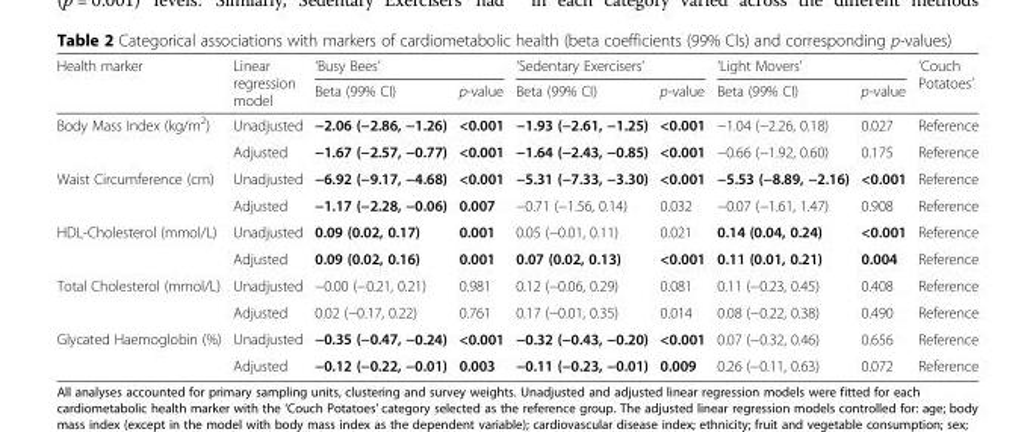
<table><thead><tr><td rowspan="2">Health marker</td><td rowspan="2">Linear regression model</td><td colspan="2">‘Busy Bees’</td><td colspan="2">‘Sedentary Exercisers’</td><td colspan="2">‘Light Movers’</td><td rowspan="2">‘Couch Potatoes’</td></tr><tr><td>Beta (99% CI)</td><td>p-value</td><td>Beta (99% CI)</td><td>p-value</td><td>Beta (99% CI)</td><td>p-value</td></tr></thead><tbody><tr><td rowspan="2">Body Mass Index (kg/m<sup>2</sup>)</td><td>Unadjusted</td><td>−2.06 (−2.86, −1.26)</td><td>&lt;0.001</td><td>−1.93 (−2.61, −1.25)</td><td>&lt;0.001</td><td>−1.04 (−2.26, 0.18)</td><td>0.027</td><td>Reference</td></tr><tr><td>Adjusted</td><td>−1.67 (−2.57, −0.77)</td><td>&lt;0.001</td><td>−1.64 (−2.43, −0.85)</td><td>&lt;0.001</td><td>−0.66 (−1.92, 0.60)</td><td>0.175</td><td>Reference</td></tr><tr><td rowspan="2">Waist Circumference (cm)</td><td>Unadjusted</td><td>−6.92 (−9.17, −4.68)</td><td>&lt;0.001</td><td>−5.31 (−7.33, −3.30)</td><td>&lt;0.001</td><td>−5.53 (−8.89, −2.16)</td><td>&lt;0.001</td><td>Reference</td></tr><tr><td>Adjusted</td><td>−1.17 (−2.28, −0.06)</td><td>0.007</td><td>−0.71 (−1.56, 0.14)</td><td>0.032</td><td>−0.07 (−1.61, 1.47)</td><td>0.908</td><td>Reference</td></tr><tr><td rowspan="2">HDL-Cholesterol (mmol/L)</td><td>Unadjusted</td><td>0.09 (0.02, 0.17)</td><td>0.001</td><td>0.05 (−0.01, 0.11)</td><td>0.021</td><td>0.14 (0.04, 0.24)</td><td>&lt;0.001</td><td>Reference</td></tr><tr><td>Adjusted</td><td>0.09 (0.02, 0.16)</td><td>0.001</td><td>0.07 (0.02, 0.13)</td><td>&lt;0.001</td><td>0.11 (0.01, 0.21)</td><td>0.004</td><td>Reference</td></tr><tr><td rowspan="2">Total Cholesterol (mmol/L)</td><td>Unadjusted</td><td>−0.00 (−0.21, 0.21)</td><td>0.981</td><td>0.12 (−0.06, 0.29)</td><td>0.081</td><td>0.11 (−0.23, 0.45)</td><td>0.408</td><td>Reference</td></tr><tr><td>Adjusted</td><td>0.02 (−0.17, 0.22)</td><td>0.761</td><td>0.17 (−0.01, 0.35)</td><td>0.014</td><td>0.08 (−0.22, 0.38)</td><td>0.490</td><td>Reference</td></tr><tr><td rowspan="2">Glycated Haemoglobin (%)</td><td>Unadjusted</td><td>−0.35 (−0.47, −0.24)</td><td>&lt;0.001</td><td>−0.32 (−0.43, −0.20)</td><td>&lt;0.001</td><td>0.07 (−0.32, 0.46)</td><td>0.656</td><td>Reference</td></tr><tr><td>Adjusted</td><td>−0.12 (−0.22, −0.01)</td><td>0.003</td><td>−0.11 (−0.23, −0.01)</td><td>0.009</td><td>0.26 (−0.11, 0.63)</td><td>0.072</td><td>Reference</td></tr></tbody></table>